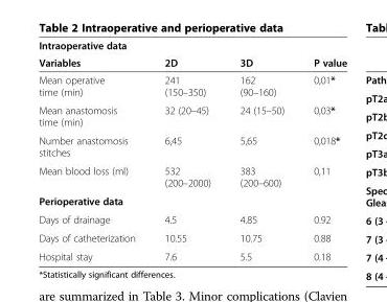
<table><thead><tr><td rowspan="2">Intraoperative data Variables</td><td rowspan="2">2D</td><td rowspan="2">3D</td><td rowspan="2">P value</td></tr><tr></tr></thead><tbody><tr><td>Mean operative time (min)</td><td>241 (150–350)</td><td>162 (90–160)</td><td>0,01*</td></tr><tr><td>Mean anastomosis time (min)</td><td>32 (20–45)</td><td>24 (15–50)</td><td>0,03*</td></tr><tr><td>Number anastomosis stitches</td><td>6,45</td><td>5,65</td><td>0,018*</td></tr><tr><td>Mean blood loss (ml)</td><td>532 (200–2000)</td><td>383 (200–600)</td><td>0,11</td></tr><tr><td colspan="4">Perioperative data</td></tr><tr><td>Days of drainage</td><td>4.5</td><td>4.85</td><td>0.92</td></tr><tr><td>Days of catheterization</td><td>10.55</td><td>10.75</td><td>0.88</td></tr><tr><td>Hospital stay</td><td>7.6</td><td>5.5</td><td>0.18</td></tr></tbody></table>